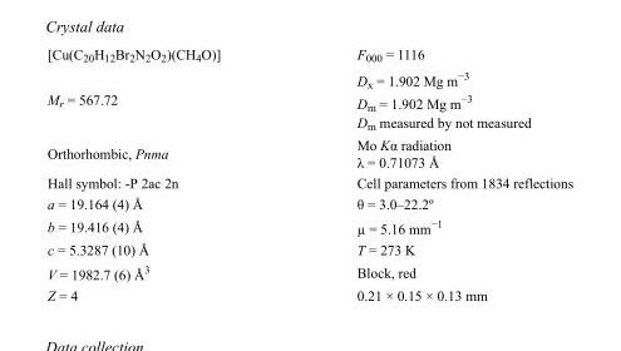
<table><tbody><tr><td>[Cu(C<sub>20</sub>H<sub>12</sub>Br<sub>2</sub>N<sub>2</sub>O<sub>2</sub>)(CH<sub>4</sub>O)]</td><td>F000 = 1116</td></tr><tr><td>M<sub>r</sub> = 567.72</td><td>D<sub>x</sub> = 1.902 Mg m<sup>−3</sup> D<sub>m</sub> = 1.902 Mg m<sup>−3</sup> D<sub>m</sub> measured by not measured</td></tr><tr><td>Orthorhombic, Pnma</td><td>Mo Kα radiation λ = 0.71073 Å</td></tr><tr><td>Hall symbol: -P 2ac 2n</td><td>Cell parameters from 1834 reflections</td></tr><tr><td>a = 19.164 (4) Å</td><td>θ = 3.0–22.2º</td></tr><tr><td>b = 19.416 (4) Å</td><td>µ = 5.16 mm<sup>−1</sup></td></tr><tr><td>c = 5.3287 (10) Å</td><td>T = 273 K</td></tr><tr><td>V = 1982.7 (6) Å<sup>3</sup></td><td>Block, red</td></tr><tr><td>Z = 4</td><td>0.21 × 0.15 × 0.13 mm</td></tr></tbody></table>